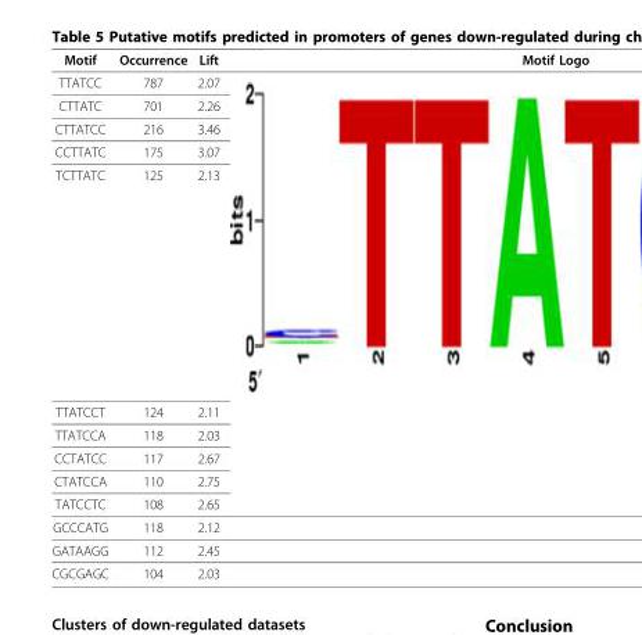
<table><thead><tr><td>Motif</td><td>Occurrence</td><td>Lift</td><td>Motif Logo</td></tr></thead><tbody><tr><td>TTATCC</td><td>787</td><td>2.07</td><td></td></tr><tr><td>CTTATC</td><td>701</td><td>2.26</td><td></td></tr><tr><td>CTTATCC</td><td>216</td><td>3.46</td><td></td></tr><tr><td>CCTTATC</td><td>175</td><td>3.07</td><td></td></tr><tr><td>TCTTATC</td><td>125</td><td>2.13</td><td></td></tr><tr><td>TTATCCT</td><td>124</td><td>2.11</td><td></td></tr><tr><td>TTATCCA</td><td>118</td><td>2.03</td><td></td></tr><tr><td>CCTATCC</td><td>117</td><td>2.67</td><td></td></tr><tr><td>CTATCCA</td><td>110</td><td>2.75</td><td></td></tr><tr><td>TATCCTC</td><td>108</td><td>2.65</td><td></td></tr><tr><td>GCCCATG</td><td>118</td><td>2.12</td><td></td></tr><tr><td>GATAAGG</td><td>112</td><td>2.45</td><td></td></tr><tr><td>CGCGAGC</td><td>104</td><td>2.03</td><td></td></tr></tbody></table>